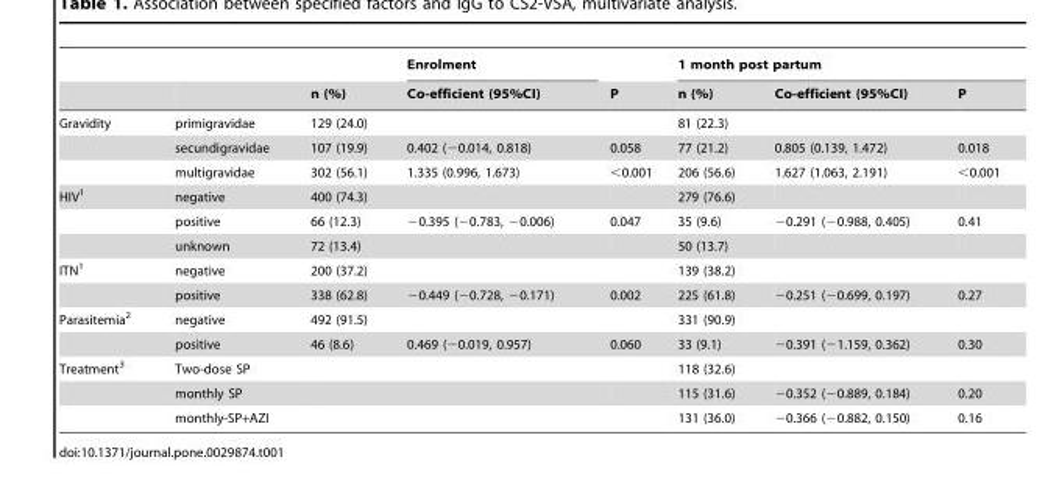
<table><thead><tr><td rowspan="2"></td><td rowspan="2"></td><td rowspan="2">n (%)</td><td rowspan="2">Enrolment Co-efficient (95%CI)</td><td rowspan="2">P</td><td colspan="3">1 month post partum</td></tr><tr><td>n (%)</td><td>Co-efficient (95%CI)</td><td>P</td></tr></thead><tbody><tr><td rowspan="3">Gravidity</td><td>primigravidae</td><td>129 (24.0)</td><td></td><td></td><td>81 (22.3)</td><td></td><td></td></tr><tr><td>secundigravidae</td><td>107 (19.9)</td><td>0.402 (−0.014, 0.818)</td><td>0.058</td><td>77 (21.2)</td><td>0.805 (0.139, 1.472)</td><td>0.018</td></tr><tr><td>multigravidae</td><td>302 (56.1)</td><td>1.335 (0.996, 1.673)</td><td>&lt;0.001</td><td>206 (56.6)</td><td>1.627 (1.063, 2.191)</td><td>&lt;0.001</td></tr><tr><td rowspan="3">HIV<sup>1</sup></td><td>negative</td><td>400 (74.3)</td><td></td><td></td><td>279 (76.6)</td><td></td><td></td></tr><tr><td>positive</td><td>66 (12.3)</td><td>−0.395 (−0.783, −0.006)</td><td>0.047</td><td>35 (9.6)</td><td>−0.291 (−0.988, 0.405)</td><td>0.41</td></tr><tr><td>unknown</td><td>72 (13.4)</td><td></td><td></td><td>50 (13.7)</td><td></td><td></td></tr><tr><td rowspan="2">ITN<sup>1</sup></td><td>negative</td><td>200 (37.2)</td><td></td><td></td><td>139 (38.2)</td><td></td><td></td></tr><tr><td>positive</td><td>338 (62.8)</td><td>−0.449 (−0.728, −0.171)</td><td>0.002</td><td>225 (61.8)</td><td>−0.251 (−0.699, 0.197)</td><td>0.27</td></tr><tr><td rowspan="2">Parasitemia<sup>2</sup></td><td>negative</td><td>492 (91.5)</td><td></td><td></td><td>331 (90.9)</td><td></td><td></td></tr><tr><td>positive</td><td>46 (8.6)</td><td>0.469 (−0.019, 0.957)</td><td>0.060</td><td>33 (9.1)</td><td>−0.391 (−1.159, 0.362)</td><td>0.30</td></tr><tr><td rowspan="3">Treatment<sup>3</sup></td><td>Two-dose SP</td><td></td><td></td><td></td><td>118 (32.6)</td><td></td><td></td></tr><tr><td>monthly SP</td><td></td><td></td><td></td><td>115 (31.6)</td><td>−0.352 (−0.889, 0.184)</td><td>0.20</td></tr><tr><td>monthly-SP+AZI</td><td></td><td></td><td></td><td>131 (36.0)</td><td>−0.366 (−0.882, 0.150)</td><td>0.16</td></tr></tbody></table>